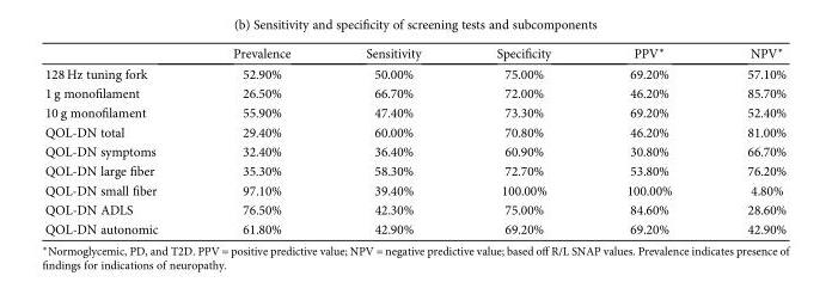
<table><thead><tr><td></td><td>Prevalence</td><td>Sensitivity</td><td>Specificity</td><td>PPV∗</td><td>NPV∗</td></tr></thead><tbody><tr><td>128 Hz tuning fork</td><td>52.90%</td><td>50.00%</td><td>75.00%</td><td>69.20%</td><td>57.10%</td></tr><tr><td>1 g monofilament</td><td>26.50%</td><td>66.70%</td><td>72.00%</td><td>46.20%</td><td>85.70%</td></tr><tr><td>10 g monofilament</td><td>55.90%</td><td>47.40%</td><td>73.30%</td><td>69.20%</td><td>52.40%</td></tr><tr><td>QOL-DN total</td><td>29.40%</td><td>60.00%</td><td>70.80%</td><td>46.20%</td><td>81.00%</td></tr><tr><td>QOL-DN symptoms</td><td>32.40%</td><td>36.40%</td><td>60.90%</td><td>30.80%</td><td>66.70%</td></tr><tr><td>QOL-DN large fiber</td><td>35.30%</td><td>58.30%</td><td>72.70%</td><td>53.80%</td><td>76.20%</td></tr><tr><td>QOL-DN small fiber</td><td>97.10%</td><td>39.40%</td><td>100.00%</td><td>100.00%</td><td>4.80%</td></tr><tr><td>QOL-DN ADLS</td><td>76.50%</td><td>42.30%</td><td>75.00%</td><td>84.60%</td><td>28.60%</td></tr><tr><td>QOL-DN autonomic</td><td>61.80%</td><td>42.90%</td><td>69.20%</td><td>69.20%</td><td>42.90%</td></tr></tbody></table>